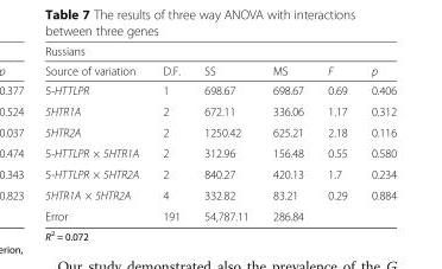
<table><thead><tr><td colspan="6">Russians</td></tr><tr><td>Source of variation</td><td>D.F.</td><td>SS</td><td>MS</td><td>F</td><td>p</td></tr></thead><tbody><tr><td>5-HTTLPR</td><td>1</td><td>698.67</td><td>698.67</td><td>0.69</td><td>0.406</td></tr><tr><td>5HTR1A</td><td>2</td><td>672.11</td><td>336.06</td><td>1.17</td><td>0.312</td></tr><tr><td>5HTR2A</td><td>2</td><td>1250.42</td><td>625.21</td><td>2.18</td><td>0.116</td></tr><tr><td>5-HTTLPR × 5HTR1A</td><td>2</td><td>312.96</td><td>156.48</td><td>0.55</td><td>0.580</td></tr><tr><td>5-HTTLPR × 5HTR2A</td><td>2</td><td>840.27</td><td>420.13</td><td>1.7</td><td>0.234</td></tr><tr><td>5HTR1A × 5HTR2A</td><td>4</td><td>332.82</td><td>83.21</td><td>0.29</td><td>0.884</td></tr><tr><td>Error</td><td>191</td><td>54,787.11</td><td>286.84</td><td></td><td></td></tr></tbody></table>